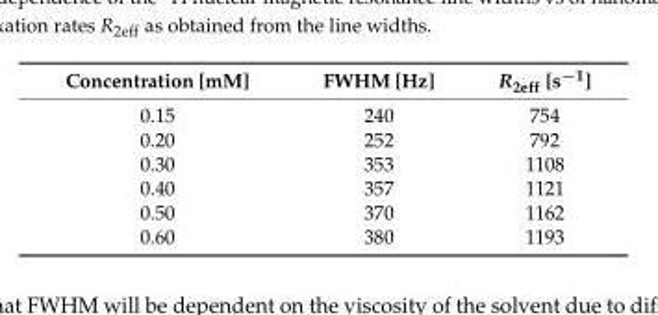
<table><thead><tr><td>Concentration [mM]</td><td>FWHM [Hz]</td><td>R<sub>2eff</sub> [s<sup>−1</sup>]</td></tr></thead><tbody><tr><td>0.15</td><td>240</td><td>754</td></tr><tr><td>0.20</td><td>252</td><td>792</td></tr><tr><td>0.30</td><td>353</td><td>1108</td></tr><tr><td>0.40</td><td>357</td><td>1121</td></tr><tr><td>0.50</td><td>370</td><td>1162</td></tr><tr><td>0.60</td><td>380</td><td>1193</td></tr></tbody></table>